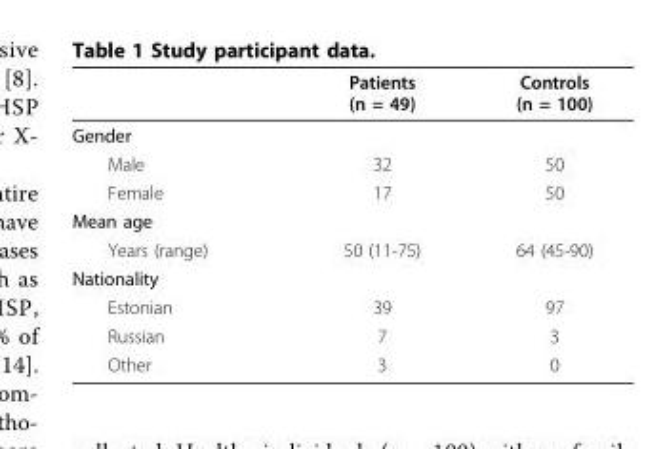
<table><thead><tr><td></td><td>Patients (n = 49)</td><td>Controls (n = 100)</td></tr></thead><tbody><tr><td colspan="3">Gender</td></tr><tr><td>Male</td><td>32</td><td>50</td></tr><tr><td>Female</td><td>17</td><td>50</td></tr><tr><td colspan="3">Mean age</td></tr><tr><td>Years (range)</td><td>50 (11-75)</td><td>64 (45-90)</td></tr><tr><td colspan="3">Nationality</td></tr><tr><td>Estonian</td><td>39</td><td>97</td></tr><tr><td>Russian</td><td>7</td><td>3</td></tr><tr><td>Other</td><td>3</td><td>0</td></tr></tbody></table>